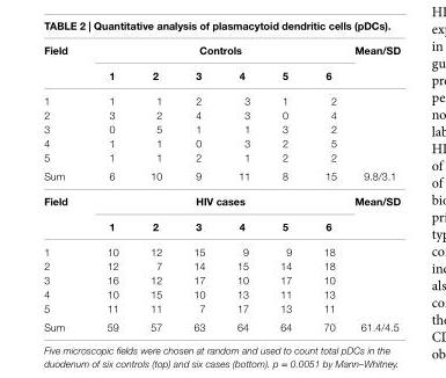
<table><thead><tr><td rowspan="2">Field</td><td colspan="6">controls</td><td rowspan="2">Mean/sD</td></tr><tr><td>1</td><td>2</td><td>3</td><td>4</td><td>5</td><td>6</td></tr></thead><tbody><tr><td>1</td><td>1</td><td>1</td><td>2</td><td>3</td><td>1</td><td>2</td><td></td></tr><tr><td>2</td><td>3</td><td>2</td><td>4</td><td>3</td><td>0</td><td>4</td><td></td></tr><tr><td>3</td><td>0</td><td>5</td><td>1</td><td>1</td><td>3</td><td>2</td><td></td></tr><tr><td>4</td><td>1</td><td>1</td><td>0</td><td>3</td><td>2</td><td>5</td><td></td></tr><tr><td>5</td><td>1</td><td>1</td><td>2</td><td>1</td><td>2</td><td>2</td><td></td></tr><tr><td>Sum</td><td>6</td><td>10</td><td>9</td><td>11</td><td>8</td><td>15</td><td>9.8/3.1</td></tr><tr><td rowspan="2">Field</td><td colspan="6">hiV cases</td><td>Mean/sD</td></tr><tr><td>1</td><td>2</td><td>3</td><td>4</td><td>5</td><td>6</td><td></td></tr><tr><td>1</td><td>10</td><td>12</td><td>15</td><td>9</td><td>9</td><td>18</td><td></td></tr><tr><td>2</td><td>12</td><td>7</td><td>14</td><td>15</td><td>14</td><td>18</td><td></td></tr><tr><td>3</td><td>16</td><td>12</td><td>17</td><td>10</td><td>17</td><td>10</td><td></td></tr><tr><td>4</td><td>10</td><td>15</td><td>10</td><td>13</td><td>11</td><td>13</td><td></td></tr><tr><td>5</td><td>11</td><td>11</td><td>7</td><td>17</td><td>13</td><td>11</td><td></td></tr><tr><td>Sum</td><td>59</td><td>57</td><td>63</td><td>64</td><td>64</td><td>70</td><td>61.4/4.5</td></tr></tbody></table>